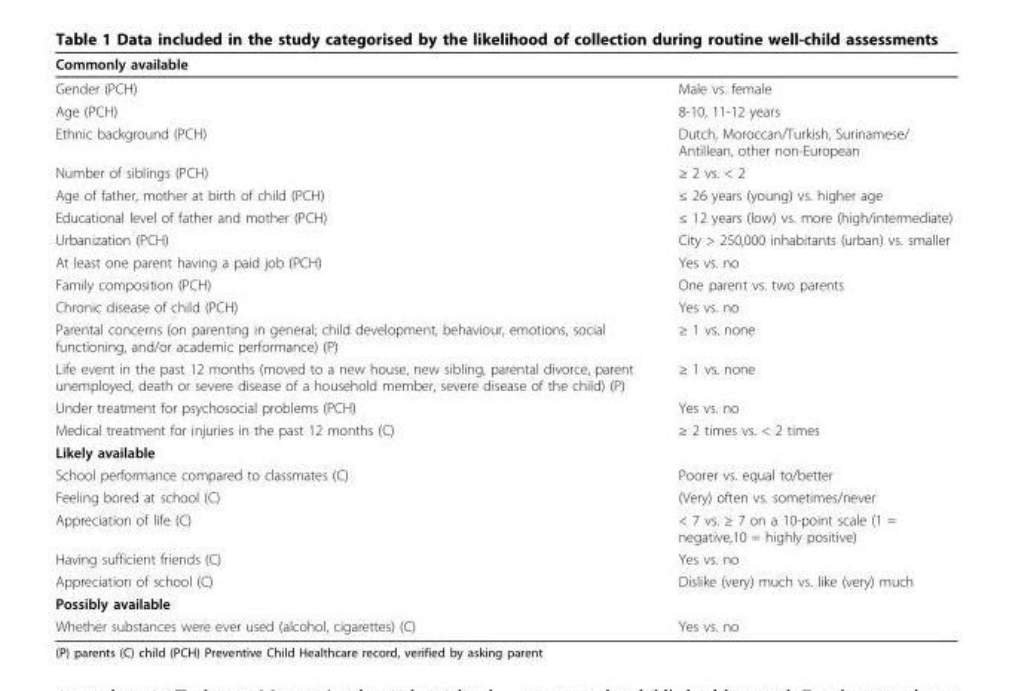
<table><thead><tr><td>Commonly available</td><td></td></tr></thead><tbody><tr><td>Gender (PCH)</td><td>Male vs. female</td></tr><tr><td>Age (PCH)</td><td>8-10, 11-12 years</td></tr><tr><td>Ethnic background (PCH)</td><td>Dutch, Moroccan/Turkish, Surinamese/ Antillean, other non-European</td></tr><tr><td>Number of siblings (PCH)</td><td>≥ 2 vs. &lt; 2</td></tr><tr><td>Age of father, mother at birth of child (PCH)</td><td>≤ 26 years (young) vs. higher age</td></tr><tr><td>Educational level of father and mother (PCH)</td><td>≤ 12 years (low) vs. more (high/intermediate)</td></tr><tr><td>Urbanization (PCH)</td><td>City &gt; 250,000 inhabitants (urban) vs. smaller</td></tr><tr><td>At least one parent having a paid job (PCH)</td><td>Yes vs. no</td></tr><tr><td>Family composition (PCH)</td><td>One parent vs. two parents</td></tr><tr><td>Chronic disease of child (PCH)</td><td>Yes vs. no</td></tr><tr><td>Parental concerns (on parenting in general; child development, behaviour, emotions, social functioning, and/or academic performance) (P)</td><td>≥ 1 vs. none</td></tr><tr><td>Life event in the past 12 months (moved to a new house, new sibling, parental divorce, parent unemployed, death or severe disease of a household member, severe disease of the child) (P)</td><td>≥ 1 vs. none</td></tr><tr><td>Under treatment for psychosocial problems (PCH)</td><td>Yes vs. no</td></tr><tr><td>Medical treatment for injuries in the past 12 months (C)</td><td>≥ 2 times vs. &lt; 2 times</td></tr><tr><td colspan="2">Likely available</td></tr><tr><td>School performance compared to classmates (C)</td><td>Poorer vs. equal to/better</td></tr><tr><td>Feeling bored at school (C)</td><td>(Very) often vs. sometimes/never</td></tr><tr><td>Appreciation of life (C)</td><td>&lt; 7 vs. ≥ 7 on a 10-point scale (1 = negative,10 = highly positive)</td></tr><tr><td>Having sufficient friends (C)</td><td>Yes vs. no</td></tr><tr><td>Appreciation of school (C)</td><td>Dislike (very) much vs. like (very) much</td></tr><tr><td colspan="2">Possibly available</td></tr><tr><td>Whether substances were ever used (alcohol, cigarettes) (C)</td><td>Yes vs. no</td></tr></tbody></table>